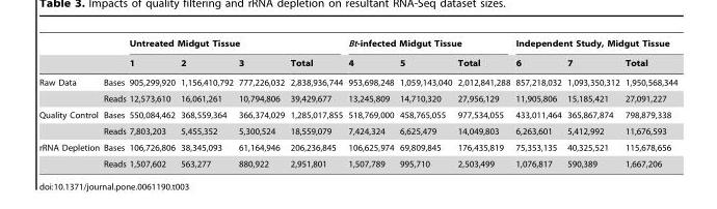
<table><thead><tr><td rowspan="2"></td><td rowspan="2"></td><td colspan="4">Untreated Midgut Tissue</td><td colspan="3">Bt-infected Midgut Tissue</td><td colspan="3">Independent Study, Midgut Tissue</td></tr><tr><td>1</td><td>2</td><td>3</td><td>Total</td><td>4</td><td>5</td><td>Total</td><td>6</td><td>7</td><td>Total</td></tr></thead><tbody><tr><td rowspan="2">Raw Data</td><td>Bases</td><td>905,299,920</td><td>1,156,410,792</td><td>777,226,032</td><td>2,838,936,744</td><td>953,698,248</td><td>1,059,143,040</td><td>2,012,841,288</td><td>857,218,032</td><td>1,093,350,312</td><td>1,950,568,344</td></tr><tr><td>Reads</td><td>12,573,610</td><td>16,061,261</td><td>10,794,806</td><td>39,429,677</td><td>13,245,809</td><td>14,710,320</td><td>27,956,129</td><td>11,905,806</td><td>15,185,421</td><td>27,091,227</td></tr><tr><td rowspan="2">Quality Control</td><td>Bases</td><td>550,084,462</td><td>368,559,364</td><td>366,374,029</td><td>1,285,017,855</td><td>518,769,000</td><td>458,765,055</td><td>977,534,055</td><td>433,011,464</td><td>365,867,874</td><td>798,879,338</td></tr><tr><td>Reads</td><td>7,803,203</td><td>5,455,352</td><td>5,300,524</td><td>18,559,079</td><td>7,424,324</td><td>6,625,479</td><td>14,049,803</td><td>6,263,601</td><td>5,412,992</td><td>11,676,593</td></tr><tr><td rowspan="2">rRNA Depletion</td><td>Bases</td><td>106,726,806</td><td>38,345,093</td><td>61,164,946</td><td>206,236,845</td><td>106,625,974</td><td>69,809,845</td><td>176,435,819</td><td>75,353,135</td><td>40,325,521</td><td>115,678,656</td></tr><tr><td>Reads</td><td>1,507,602</td><td>563,277</td><td>880,922</td><td>2,951,801</td><td>1,507,789</td><td>995,710</td><td>2,503,499</td><td>1,076,817</td><td>590,389</td><td>1,667,206</td></tr></tbody></table>